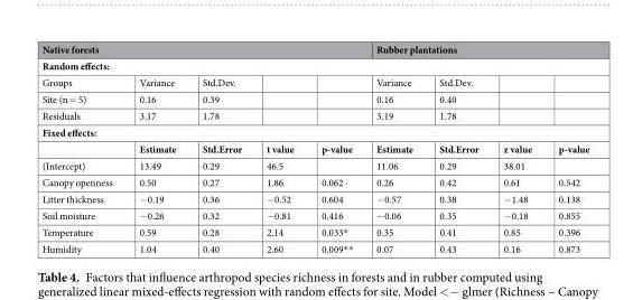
<table><thead><tr><td colspan="5">Native forests</td><td colspan="4">Rubber plantations</td></tr><tr><td colspan="9">Random effects:</td></tr><tr><td>Groups</td><td>Variance</td><td>Std.Dev.</td><td></td><td></td><td>Variance</td><td>Std.Dev.</td><td></td><td></td></tr></thead><tbody><tr><td>Site (n = 5)</td><td>0.16</td><td>0.39</td><td></td><td></td><td>0.16</td><td>0.40</td><td></td><td></td></tr><tr><td>Residuals</td><td>3.17</td><td>1.78</td><td></td><td></td><td>3.19</td><td>1.78</td><td></td><td></td></tr><tr><td colspan="9">Fixed effects:</td></tr><tr><td></td><td>Estimate</td><td>Std.Error</td><td>t value</td><td>p-value</td><td>Estimate</td><td>Std.Error</td><td>z value</td><td>p-value</td></tr><tr><td>(Intercept)</td><td>13.49</td><td>0.29</td><td>46.5</td><td></td><td>11.06</td><td>0.29</td><td>38.01</td><td></td></tr><tr><td>Canopy openness</td><td>0.50</td><td>0.27</td><td>1.86</td><td>0.062 ·</td><td>0.26</td><td>0.42</td><td>0.61</td><td>0.542</td></tr><tr><td>Litter thickness</td><td>−0.19</td><td>0.36</td><td>−0.52</td><td>0.604</td><td>−0.57</td><td>0.38</td><td>−1.48</td><td>0.138</td></tr><tr><td>Soil moisture</td><td>−0.26</td><td>0.32</td><td>−0.81</td><td>0.416</td><td>−0.06</td><td>0.35</td><td>−0.18</td><td>0.855</td></tr><tr><td>Temperature</td><td>0.59</td><td>0.28</td><td>2.14</td><td>0.033*</td><td>0.35</td><td>0.41</td><td>0.85</td><td>0.396</td></tr><tr><td>Humidity</td><td>1.04</td><td>0.40</td><td>2.60</td><td>0.009**</td><td>0.07</td><td>0.43</td><td>0.16</td><td>0.873</td></tr></tbody></table>